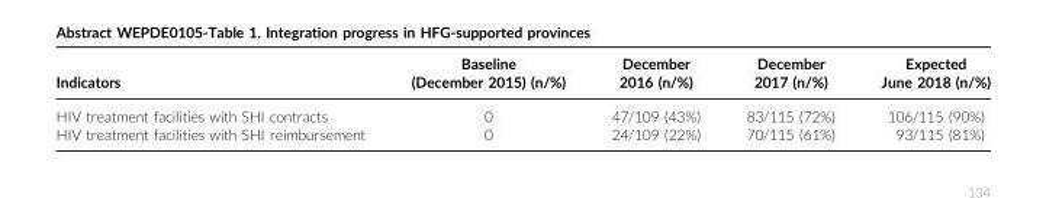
<table><thead><tr><td>Indicators</td><td>Baseline (December 2015) (n/%)</td><td>December 2016 (n/%)</td><td>December 2017 (n/%)</td><td>Expected June 2018 (n/%)</td></tr></thead><tbody><tr><td>HIV treatment facilities with SHI contracts</td><td>0</td><td>47/109 (43%)</td><td>83/115 (72%)</td><td>106/115 (90%)</td></tr><tr><td>HIV treatment facilities with SHI reimbursement</td><td>0</td><td>24/109 (22%)</td><td>70/115 (61%)</td><td>93/115 (81%)</td></tr></tbody></table>